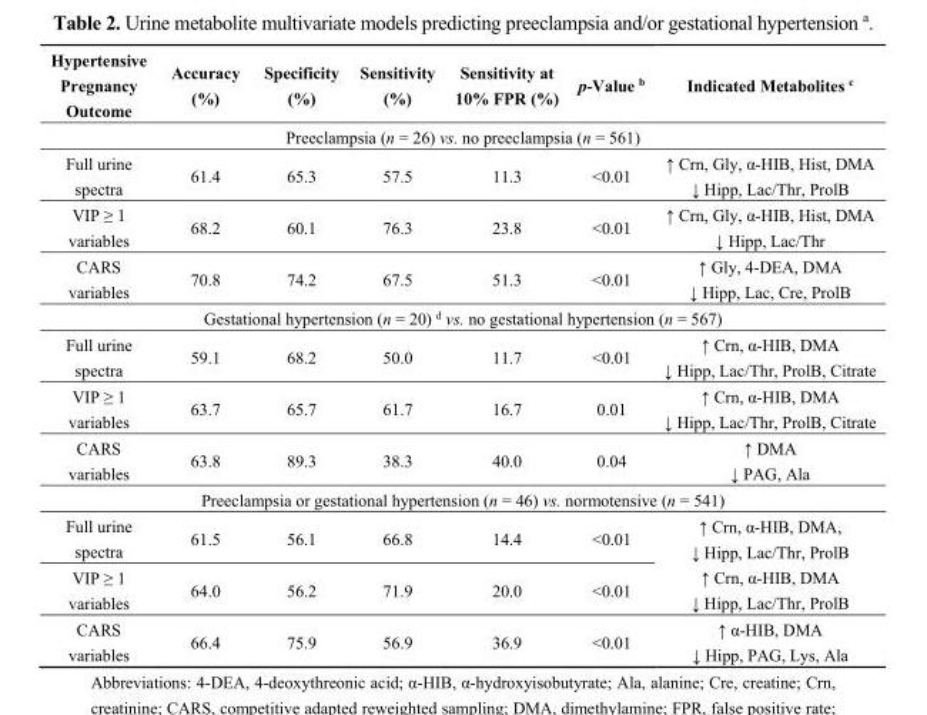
<table><thead><tr><td>Hypertensive Pregnancy Outcome</td><td>Accuracy (%)</td><td>Specificity (%)</td><td>Sensitivity (%)</td><td>Sensitivity at 10% FPR (%)</td><td>p-Value <sup>b</sup></td><td>Indicated Metabolites <sup>c</sup></td></tr></thead><tbody><tr><td colspan="7">Preeclampsia (n = 26) vs. no preeclampsia (n = 561)</td></tr><tr><td>Full urine spectra</td><td>61.4</td><td>65.3</td><td>57.5</td><td>11.3</td><td>&lt;0.01</td><td>↑ Crn, Gly, α-HIB, Hist, DMA ↓ Hipp, Lac/Thr, ProlB</td></tr><tr><td>VIP ≥ 1 variables</td><td>68.2</td><td>60.1</td><td>76.3</td><td>23.8</td><td>&lt;0.01</td><td>↑ Crn, Gly, α-HIB, Hist, DMA ↓ Hipp, Lac/Thr</td></tr><tr><td>CARS variables</td><td>70.8</td><td>74.2</td><td>67.5</td><td>51.3</td><td>&lt;0.01</td><td>↑ Gly, 4-DEA, DMA ↓ Hipp, Lac, Cre, ProlB</td></tr><tr><td colspan="7">Gestational hypertension (n = 20) <sup>d</sup> vs. no gestational hypertension (n = 567)</td></tr><tr><td>Full urine spectra</td><td>59.1</td><td>68.2</td><td>50.0</td><td>11.7</td><td>&lt;0.01</td><td>↑ Crn, α-HIB, DMA ↓ Hipp, Lac/Thr, ProlB, Citrate</td></tr><tr><td>VIP ≥ 1 variables</td><td>63.7</td><td>65.7</td><td>61.7</td><td>16.7</td><td>0.01</td><td>↑ Crn, α-HIB, DMA ↓ Hipp, Lac/Thr, ProlB, Citrate</td></tr><tr><td>CARS variables</td><td>63.8</td><td>89.3</td><td>38.3</td><td>40.0</td><td>0.04</td><td>↑ DMA ↓ PAG, Ala</td></tr><tr><td colspan="7">Preeclampsia or gestational hypertension (n = 46) vs. normotensive (n = 541)</td></tr><tr><td>Full urine spectra</td><td>61.5</td><td>56.1</td><td>66.8</td><td>14.4</td><td>&lt;0.01</td><td rowspan="2">↑ Crn, α-HIB, DMA, ↓ Hipp, Lac/Thr, ProlB ↑ Crn, α-HIB, DMA ↓ Hipp, Lac/Thr, ProlB</td></tr><tr><td>VIP ≥ 1 variables</td><td>64.0</td><td>56.2</td><td>71.9</td><td>20.0</td><td>&lt;0.01</td></tr><tr><td>CARS variables</td><td>66.4</td><td>75.9</td><td>56.9</td><td>36.9</td><td>&lt;0.01</td><td>↑ α-HIB, DMA ↓ Hipp, PAG, Lys, Ala</td></tr></tbody></table>